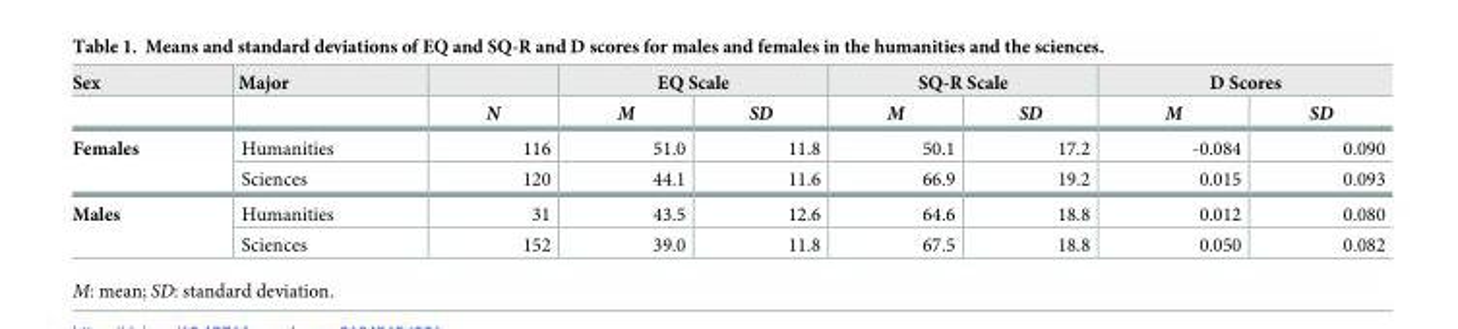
<table><thead><tr><td rowspan="2">Sex</td><td rowspan="2">Major</td><td rowspan="2">N</td><td colspan="2">EQ Scale</td><td colspan="2">SQ-R Scale</td><td colspan="2">D Scores</td></tr><tr><td>M</td><td>SD</td><td>M</td><td>SD</td><td>M</td><td>SD</td></tr></thead><tbody><tr><td rowspan="2">Females</td><td>Humanities</td><td>116</td><td>51.0</td><td>11.8</td><td>50.1</td><td>17.2</td><td>-0.084</td><td>0.090</td></tr><tr><td>Sciences</td><td>120</td><td>44.1</td><td>11.6</td><td>66.9</td><td>19.2</td><td>0.015</td><td>0.093</td></tr><tr><td rowspan="2">Males</td><td>Humanities</td><td>31</td><td>43.5</td><td>12.6</td><td>64.6</td><td>18.8</td><td>0.012</td><td>0.080</td></tr><tr><td>Sciences</td><td>152</td><td>39.0</td><td>11.8</td><td>67.5</td><td>18.8</td><td>0.050</td><td>0.082</td></tr></tbody></table>